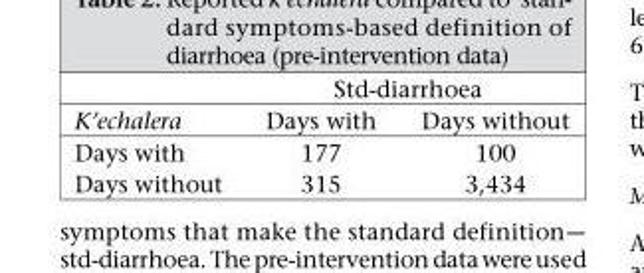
<table><thead><tr><td rowspan="2">K’echalera</td><td colspan="2">Std-diarrhoea</td></tr><tr><td>Days with</td><td>Days without</td></tr></thead><tbody><tr><td>Days with</td><td>177</td><td>100</td></tr><tr><td>Days without</td><td>315</td><td>3,434</td></tr></tbody></table>